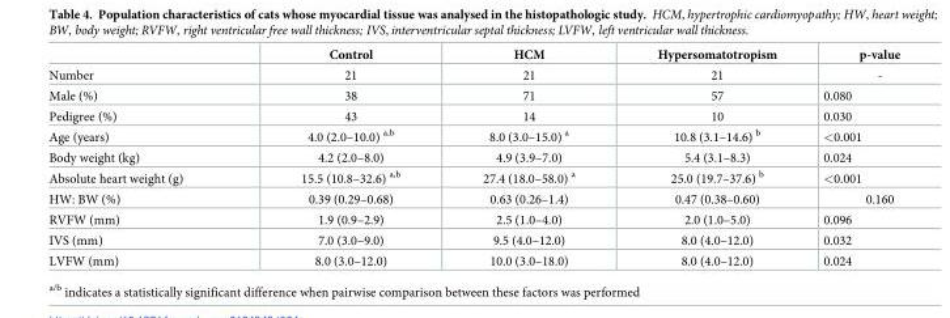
<table><thead><tr><td></td><td>Control</td><td>HCM</td><td>Hypersomatotropism</td><td>p-value</td></tr></thead><tbody><tr><td>Number</td><td>21</td><td>21</td><td>21</td><td>-</td></tr><tr><td>Male (%)</td><td>38</td><td>71</td><td>57</td><td>0.080</td></tr><tr><td>Pedigree (%)</td><td>43</td><td>14</td><td>10</td><td>0.030</td></tr><tr><td>Age (years)</td><td>4.0 (2.0–10.0) <sup>a,b</sup></td><td>8.0 (3.0–15.0) <sup>a</sup></td><td>10.8 (3.1–14.6) <sup>b</sup></td><td>&lt;0.001</td></tr><tr><td>Body weight (kg)</td><td>4.2 (2.0–8.0)</td><td>4.9 (3.9–7.0)</td><td>5.4 (3.1–8.3)</td><td>0.024</td></tr><tr><td>Absolute heart weight (g)</td><td>15.5 (10.8–32.6) <sup>a,b</sup></td><td>27.4 (18.0–58.0) <sup>a</sup></td><td>25.0 (19.7–37.6) <sup>b</sup></td><td>&lt;0.001</td></tr><tr><td>HW: BW (%)</td><td>0.39 (0.29–0.68)</td><td>0.63 (0.26–1.4)</td><td>0.47 (0.38–0.60)</td><td>0.160</td></tr><tr><td>RVFW (mm)</td><td>1.9 (0.9–2.9)</td><td>2.5 (1.0–4.0)</td><td>2.0 (1.0–5.0)</td><td>0.096</td></tr><tr><td>IVS (mm)</td><td>7.0 (3.0–9.0)</td><td>9.5 (4.0–12.0)</td><td>8.0 (4.0–12.0)</td><td>0.032</td></tr><tr><td>LVFW (mm)</td><td>8.0 (3.0–12.0)</td><td>10.0 (3.0–18.0)</td><td>8.0 (4.0–12.0)</td><td>0.024</td></tr></tbody></table>